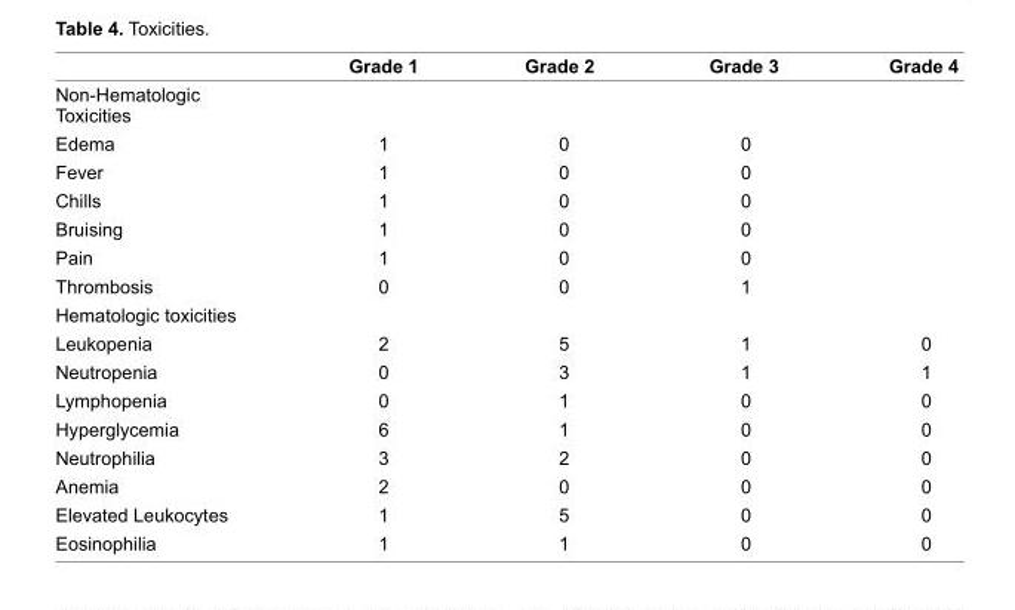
<table><thead><tr><td></td><td>Grade 1</td><td>Grade 2</td><td>Grade 3</td><td>Grade 4</td></tr></thead><tbody><tr><td colspan="5">Non-Hematologic Toxicities</td></tr><tr><td>Edema</td><td>1</td><td>0</td><td>0</td><td></td></tr><tr><td>Fever</td><td>1</td><td>0</td><td>0</td><td></td></tr><tr><td>Chills</td><td>1</td><td>0</td><td>0</td><td></td></tr><tr><td>Bruising</td><td>1</td><td>0</td><td>0</td><td></td></tr><tr><td>Pain</td><td>1</td><td>0</td><td>0</td><td></td></tr><tr><td>Thrombosis</td><td>0</td><td>0</td><td>1</td><td></td></tr><tr><td colspan="5">Hematologic toxicities</td></tr><tr><td>Leukopenia</td><td>2</td><td>5</td><td>1</td><td>0</td></tr><tr><td>Neutropenia</td><td>0</td><td>3</td><td>1</td><td>1</td></tr><tr><td>Lymphopenia</td><td>0</td><td>1</td><td>0</td><td>0</td></tr><tr><td>Hyperglycemia</td><td>6</td><td>1</td><td>0</td><td>0</td></tr><tr><td>Neutrophilia</td><td>3</td><td>2</td><td>0</td><td>0</td></tr><tr><td>Anemia</td><td>2</td><td>0</td><td>0</td><td>0</td></tr><tr><td>Elevated Leukocytes</td><td>1</td><td>5</td><td>0</td><td>0</td></tr><tr><td>Eosinophilia</td><td>1</td><td>1</td><td>0</td><td>0</td></tr></tbody></table>